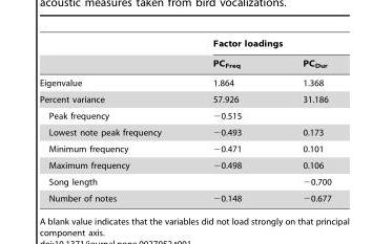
<table><thead><tr><td rowspan="2"></td><td colspan="2">Factor loadings</td></tr><tr><td>PC<sub>Freq</sub></td><td>PC<sub>Dur</sub></td></tr></thead><tbody><tr><td>Eigenvalue</td><td>1.864</td><td>1.368</td></tr><tr><td>Percent variance</td><td>57.926</td><td>31.186</td></tr><tr><td>Peak frequency</td><td>−0.515</td><td></td></tr><tr><td>Lowest note peak frequency</td><td>−0.493</td><td>0.173</td></tr><tr><td>Minimum frequency</td><td>−0.471</td><td>0.101</td></tr><tr><td>Maximum frequency</td><td>−0.498</td><td>0.106</td></tr><tr><td>Song length</td><td></td><td>−0.700</td></tr><tr><td>Number of notes</td><td>−0.148</td><td>−0.677</td></tr></tbody></table>